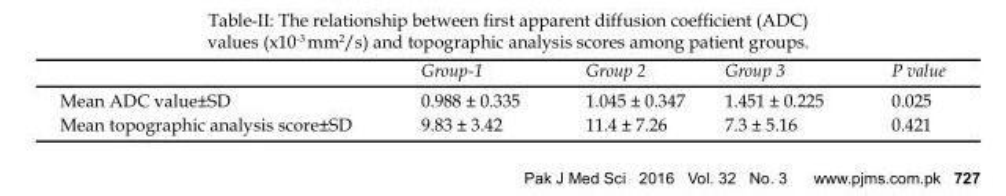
<table><thead><tr><td></td><td>Group-1</td><td>Group 2</td><td>Group 3</td><td>P value</td></tr></thead><tbody><tr><td>Mean ADC value±SD</td><td>0.988 ± 0.335</td><td>1.045 ± 0.347</td><td>1.451 ± 0.225</td><td>0.025</td></tr><tr><td>Mean topographic analysis score±SD</td><td>9.83 ± 3.42</td><td>11.4 ± 7.26</td><td>7.3 ± 5.16</td><td>0.421</td></tr></tbody></table>